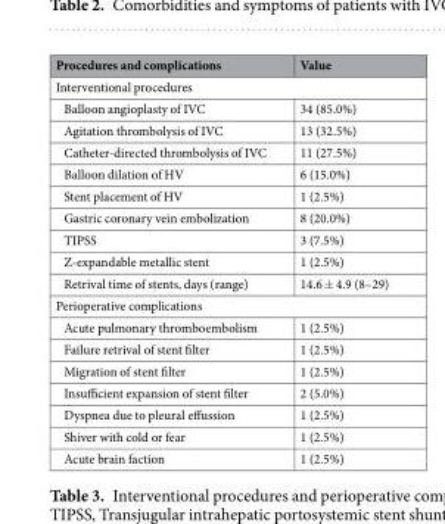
<table><thead><tr><td>Procedures and complications</td><td>Value</td></tr></thead><tbody><tr><td colspan="2">Interventional procedures</td></tr><tr><td>Balloon angioplasty of IVC</td><td>34 (85.0%)</td></tr><tr><td>Agitation thrombolysis of IVC</td><td>13 (32.5%)</td></tr><tr><td>Catheter-directed thrombolysis of IVC</td><td>11 (27.5%)</td></tr><tr><td>Balloon dilation of HV</td><td>6 (15.0%)</td></tr><tr><td>Stent placement of HV</td><td>1 (2.5%)</td></tr><tr><td>Gastric coronary vein embolization</td><td>8 (20.0%)</td></tr><tr><td>TIPSS</td><td>3 (7.5%)</td></tr><tr><td>Z-expandable metallic stent</td><td>1 (2.5%)</td></tr><tr><td>Retrival time of stents, days (range)</td><td>14.6 ± 4.9 (8–29)</td></tr><tr><td colspan="2">Perioperative complications</td></tr><tr><td>Acute pulmonary thromboembolism</td><td>1 (2.5%)</td></tr><tr><td>Failure retrival of stent filter</td><td>1 (2.5%)</td></tr><tr><td>Migration of stent filter</td><td>1 (2.5%)</td></tr><tr><td>Insufficient expansion of stent filter</td><td>2 (5.0%)</td></tr><tr><td>Dyspnea due to pleural effussion</td><td>1 (2.5%)</td></tr><tr><td>Shiver with cold or fear</td><td>1 (2.5%)</td></tr><tr><td>Acute brain faction</td><td>1 (2.5%)</td></tr></tbody></table>